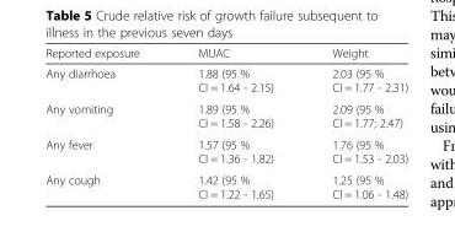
<table><thead><tr><td>Reported exposure</td><td>MUAC</td><td>Weight</td></tr></thead><tbody><tr><td>Any diarrhoea</td><td>1.88 (95 % CI = 1.64 - 2.15)</td><td>2.03 (95 % CI = 1.77 - 2.31)</td></tr><tr><td>Any vomiting</td><td>1.89 (95 % CI = 1.58 - 2.26)</td><td>2.09 (95 % CI = 1.77; 2.47)</td></tr><tr><td>Any fever</td><td>1.57 (95 % CI = 1.36 - 1.82)</td><td>1.76 (95 % CI = 1.53 - 2.03)</td></tr><tr><td>Any cough</td><td>1.42 (95 % CI = 1.22 - 1.65)</td><td>1.25 (95 % CI = 1.06 - 1.48)</td></tr></tbody></table>